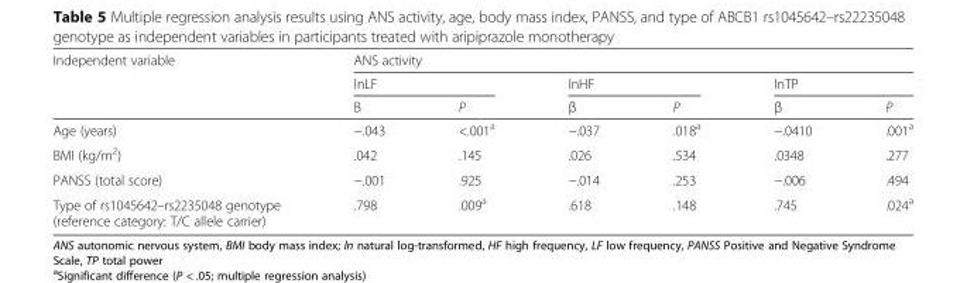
<table><thead><tr><td rowspan="3">Independent variable</td><td colspan="6">ANS activity</td></tr><tr><td colspan="2">lnLF</td><td colspan="2">lnHF</td><td colspan="2">lnTP</td></tr><tr><td>Β</td><td>P</td><td>β</td><td>P</td><td>β</td><td>P</td></tr></thead><tbody><tr><td>Age (years)</td><td>−.043</td><td>&lt;.001<sup>a</sup></td><td>−.037</td><td>.018<sup>a</sup></td><td>−.0410</td><td>.001<sup>a</sup></td></tr><tr><td>BMI (kg/m<sup>2</sup>)</td><td>.042</td><td>.145</td><td>.026</td><td>.534</td><td>.0348</td><td>.277</td></tr><tr><td>PANSS (total score)</td><td>−.001</td><td>.925</td><td>−.014</td><td>.253</td><td>−.006</td><td>.494</td></tr><tr><td>Type of rs1045642–rs2235048 genotype (reference category: T/C allele carrier)</td><td>.798</td><td>.009<sup>a</sup></td><td>.618</td><td>.148</td><td>.745</td><td>.024<sup>a</sup></td></tr></tbody></table>